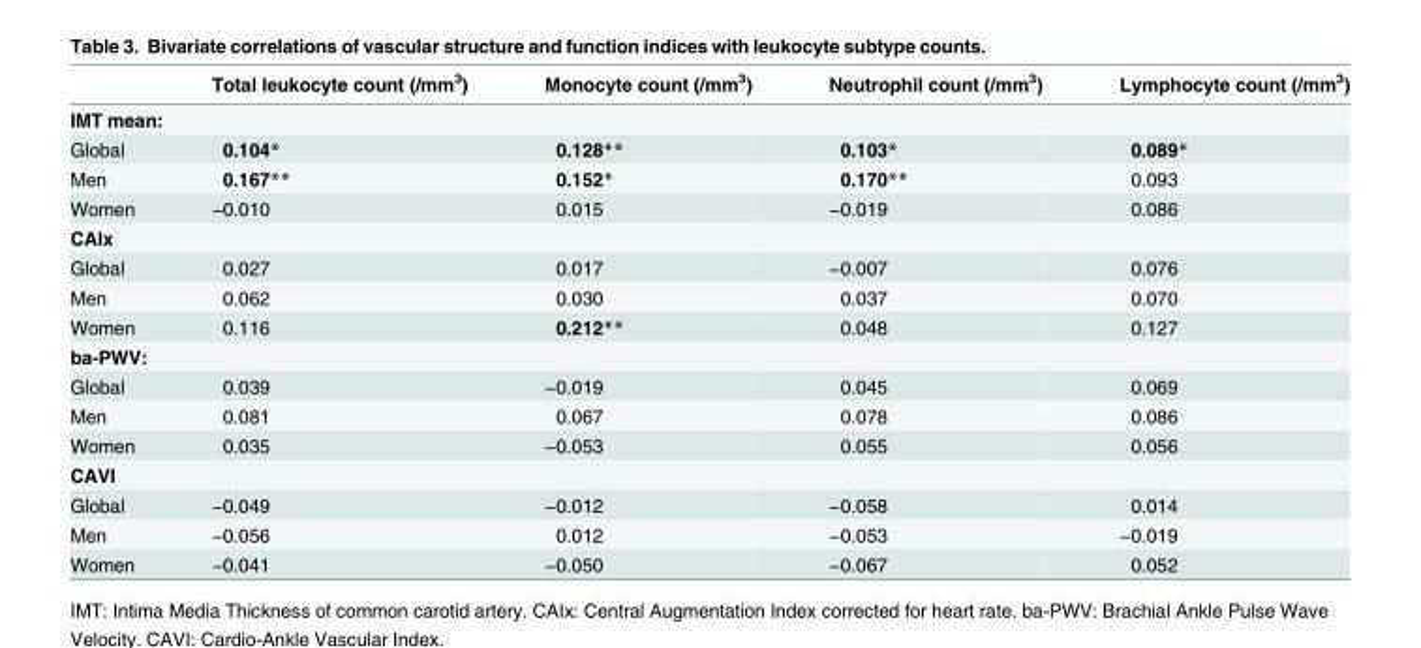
<table><thead><tr><td></td><td>Total leukocyte count (/mm<sup>3</sup>)</td><td>Monocyte count (/mm<sup>3</sup>)</td><td>Neutrophil count (/mm<sup>3</sup>)</td><td>Lymphocyte count (/mm<sup>3</sup>)</td></tr></thead><tbody><tr><td colspan="5">IMT mean:</td></tr><tr><td>Global</td><td>0.104*</td><td>0.128**</td><td>0.103*</td><td>0.089*</td></tr><tr><td>Men</td><td>0.167**</td><td>0.152*</td><td>0.170**</td><td>0.093</td></tr><tr><td>Women</td><td>−0.010</td><td>0.015</td><td>−0.019</td><td>0.086</td></tr><tr><td colspan="5">CAIx</td></tr><tr><td>Global</td><td>0.027</td><td>0.017</td><td>−0.007</td><td>0.076</td></tr><tr><td>Men</td><td>0.062</td><td>0.030</td><td>0.037</td><td>0.070</td></tr><tr><td>Women</td><td>0.116</td><td>0.212**</td><td>0.048</td><td>0.127</td></tr><tr><td colspan="5">ba-PWV:</td></tr><tr><td>Global</td><td>0.039</td><td>−0.019</td><td>0.045</td><td>0.069</td></tr><tr><td>Men</td><td>0.081</td><td>0.067</td><td>0.078</td><td>0.086</td></tr><tr><td>Women</td><td>0.035</td><td>−0.053</td><td>0.055</td><td>0.056</td></tr><tr><td colspan="5">CAVI</td></tr><tr><td>Global</td><td>−0.049</td><td>−0.012</td><td>−0.058</td><td>0.014</td></tr><tr><td>Men</td><td>−0.056</td><td>0.012</td><td>−0.053</td><td>−0.019</td></tr><tr><td>Women</td><td>−0.041</td><td>−0.050</td><td>−0.067</td><td>0.052</td></tr></tbody></table>